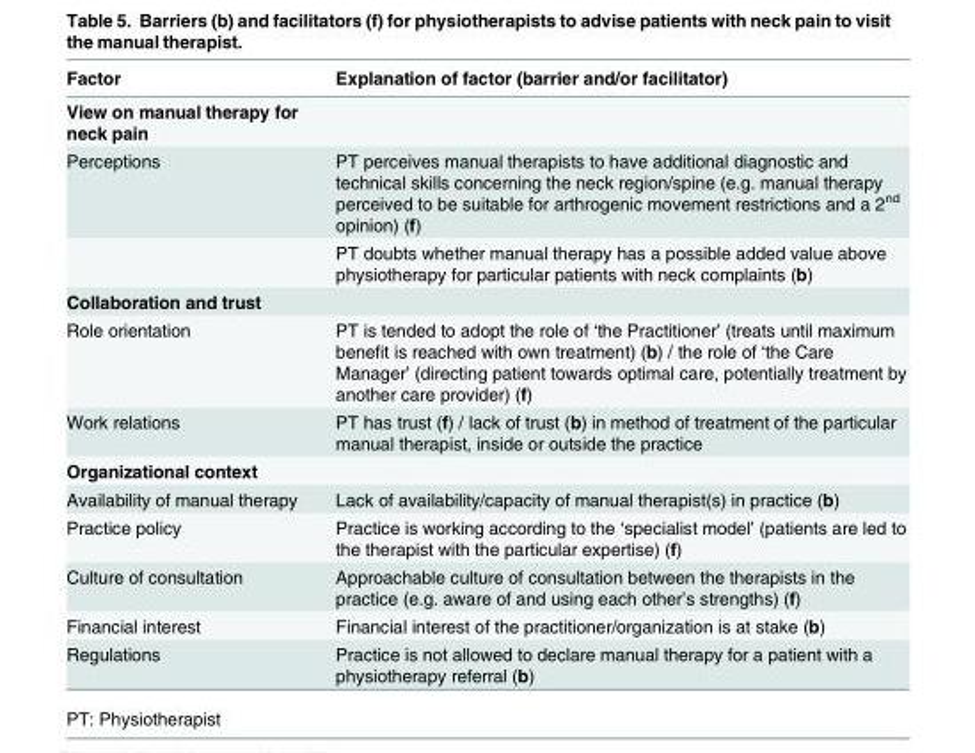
<table><thead><tr><td>Factor</td><td>Explanation of factor (barrier and/or facilitator)</td></tr></thead><tbody><tr><td colspan="2">View on manual therapy for neck pain</td></tr><tr><td rowspan="2">Perceptions</td><td>PT perceives manual therapists to have additional diagnostic and technical skills concerning the neck region/spine (e.g. manual therapy perceived to be suitable for arthrogenic movement restrictions and a 2<sup>nd</sup> opinion) (f)</td></tr><tr><td>PT doubts whether manual therapy has a possible added value above physiotherapy for particular patients with neck complaints (b)</td></tr><tr><td colspan="2">Collaboration and trust</td></tr><tr><td>Role orientation</td><td>PT is tended to adopt the role of ‘the Practitioner’ (treats until maximum benefit is reached with own treatment) (b) / the role of ‘the Care Manager’ (directing patient towards optimal care, potentially treatment by another care provider) (f)</td></tr><tr><td>Work relations</td><td>PT has trust (f) / lack of trust (b) in method of treatment of the particular manual therapist, inside or outside the practice</td></tr><tr><td colspan="2">Organizational context</td></tr><tr><td>Availability of manual therapy</td><td>Lack of availability/capacity of manual therapist(s) in practice (b)</td></tr><tr><td>Practice policy</td><td>Practice is working according to the ‘specialist model’ (patients are led to the therapist with the particular expertise) (f)</td></tr><tr><td>Culture of consultation</td><td>Approachable culture of consultation between the therapists in the practice (e.g. aware of and using each other’s strengths) (f)</td></tr><tr><td>Financial interest</td><td>Financial interest of the practitioner/organization is at stake (b)</td></tr><tr><td>Regulations</td><td>Practice is not allowed to declare manual therapy for a patient with a physiotherapy referral (b)</td></tr></tbody></table>